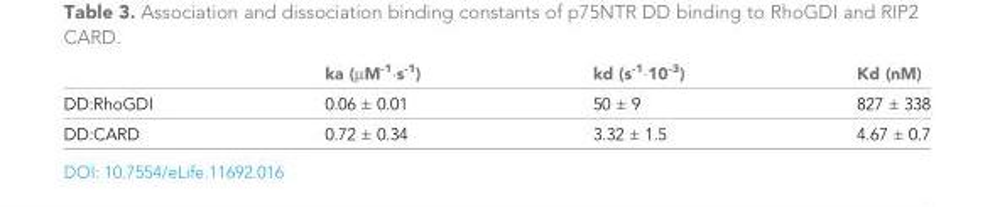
<table><thead><tr><td></td><td>ka (µM<sup>-1</sup>·s<sup>-1</sup>)</td><td>kd (s<sup>-1</sup>·10<sup>-3</sup>)</td><td>Kd (nM)</td></tr></thead><tbody><tr><td>DD:RhoGDI</td><td>0.06 ± 0.01</td><td>50 ± 9</td><td>827 ± 338</td></tr><tr><td>DD:CARD</td><td>0.72 ± 0.34</td><td>3.32 ± 1.5</td><td>4.67 ± 0.7</td></tr></tbody></table>